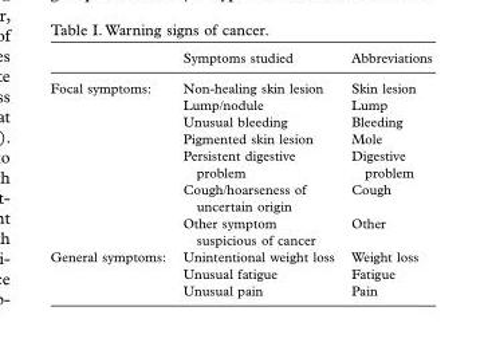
<table><thead><tr><td></td><td>Symptoms studied</td><td>Abbreviations</td></tr></thead><tbody><tr><td rowspan="7">Focal symptoms:</td><td>Non-healing skin lesion</td><td>Skin lesion</td></tr><tr><td>Lump/nodule</td><td>Lump</td></tr><tr><td>Unusual bleeding</td><td>Bleeding</td></tr><tr><td>Pigmented skin lesion</td><td>Mole</td></tr><tr><td>Persistent digestive problem</td><td>Digestive problem</td></tr><tr><td>Cough/hoarseness of uncertain origin</td><td>Cough</td></tr><tr><td>Other symptom suspicious of cancer</td><td>Other</td></tr><tr><td rowspan="3">General symptoms:</td><td>Unintentional weight loss</td><td>Weight loss</td></tr><tr><td>Unusual fatigue</td><td>Fatigue</td></tr><tr><td>Unusual pain</td><td>Pain</td></tr></tbody></table>